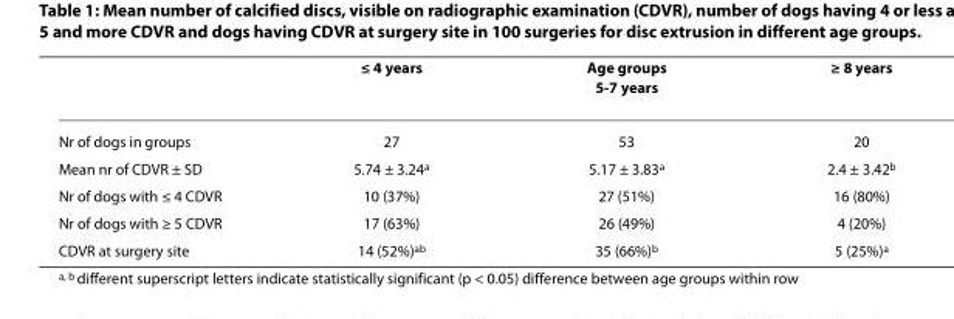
<table><thead><tr><td></td><td>≤ 4 years</td><td>Age groups 5-7 years</td><td>≥ 8 years</td></tr></thead><tbody><tr><td>Nr of dogs in groups</td><td>27</td><td>53</td><td>20</td></tr><tr><td>Mean nr of CDVR ± SD</td><td>5.74 ± 3.24<sup>a</sup></td><td>5.17 ± 3.83<sup>a</sup></td><td>2.4 ± 3.42<sup>b</sup></td></tr><tr><td>Nr of dogs with ≤ 4 CDVR</td><td>10 (37%)</td><td>27 (51%)</td><td>16 (80%)</td></tr><tr><td>Nr of dogs with ≥ 5 CDVR</td><td>17 (63%)</td><td>26 (49%)</td><td>4 (20%)</td></tr><tr><td>CDVR at surgery site</td><td>14 (52%)<sup>ab</sup></td><td>35 (66%)<sup>b</sup></td><td>5 (25%)<sup>a</sup></td></tr></tbody></table>